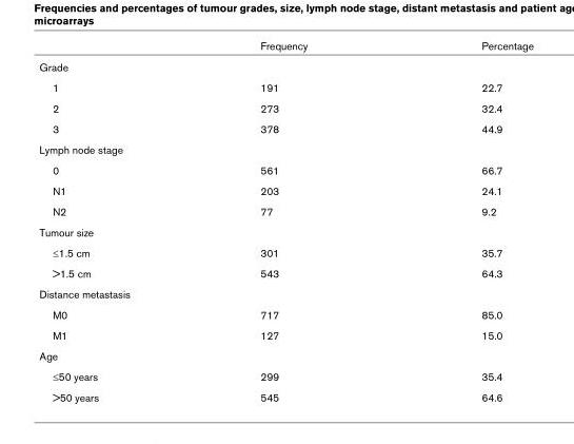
<table><thead><tr><td></td><td>Frequency</td><td>Percentage</td></tr></thead><tbody><tr><td colspan="3">Grade</td></tr><tr><td>1</td><td>191</td><td>22.7</td></tr><tr><td>2</td><td>273</td><td>32.4</td></tr><tr><td>3</td><td>378</td><td>44.9</td></tr><tr><td colspan="3">Lymph node stage</td></tr><tr><td>0</td><td>561</td><td>66.7</td></tr><tr><td>N1</td><td>203</td><td>24.1</td></tr><tr><td>N2</td><td>77</td><td>9.2</td></tr><tr><td colspan="3">Tumour size</td></tr><tr><td>≤1.5 cm</td><td>301</td><td>35.7</td></tr><tr><td>&gt;1.5 cm</td><td>543</td><td>64.3</td></tr><tr><td colspan="3">Distance metastasis</td></tr><tr><td>M0</td><td>717</td><td>85.0</td></tr><tr><td>M1</td><td>127</td><td>15.0</td></tr><tr><td colspan="3">Age</td></tr><tr><td>≤50 years</td><td>299</td><td>35.4</td></tr><tr><td>&gt;50 years</td><td>545</td><td>64.6</td></tr></tbody></table>